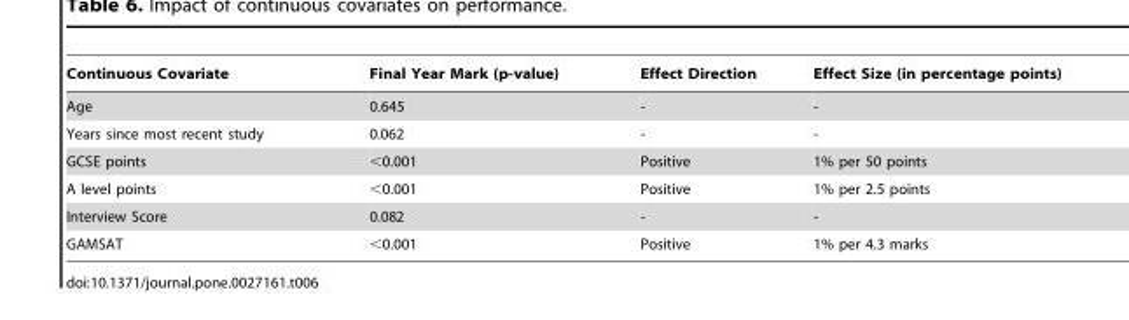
<table><thead><tr><td>Continuous Covariate</td><td>Final Year Mark (p-value)</td><td>Effect Direction</td><td>Effect Size (in percentage points)</td></tr></thead><tbody><tr><td>Age</td><td>0.645</td><td>-</td><td>-</td></tr><tr><td>Years since most recent study</td><td>0.062</td><td>-</td><td>-</td></tr><tr><td>GCSE points</td><td>&lt;0.001</td><td>Positive</td><td>1% per 50 points</td></tr><tr><td>A level points</td><td>&lt;0.001</td><td>Positive</td><td>1% per 2.5 points</td></tr><tr><td>Interview Score</td><td>0.082</td><td>-</td><td>-</td></tr><tr><td>GAMSAT</td><td>&lt;0.001</td><td>Positive</td><td>1% per 4.3 marks</td></tr></tbody></table>